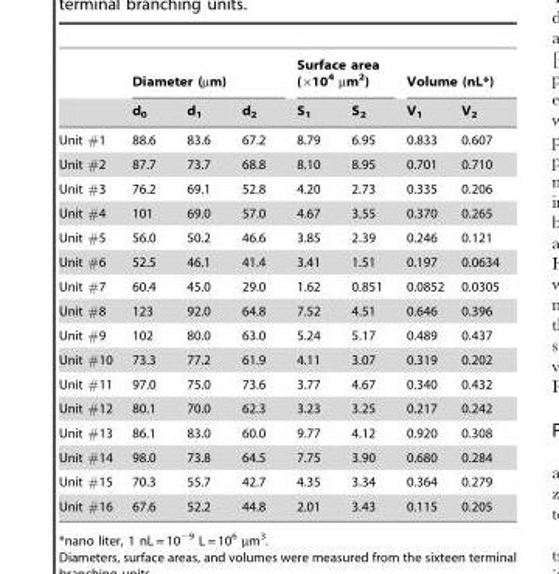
<table><thead><tr><td rowspan="2"></td><td colspan="3">Diameter (µm)</td><td colspan="2">Surface area (×10<sup>4</sup> µm<sup>2</sup>)</td><td colspan="2">Volume (nL*)</td></tr><tr><td>d<sub>0</sub></td><td>d<sub>1</sub></td><td>d<sub>2</sub></td><td>S<sub>1</sub></td><td>S<sub>2</sub></td><td>V<sub>1</sub></td><td>V<sub>2</sub></td></tr></thead><tbody><tr><td>Unit #1</td><td>88.6</td><td>83.6</td><td>67.2</td><td>8.79</td><td>6.95</td><td>0.833</td><td>0.607</td></tr><tr><td>Unit #2</td><td>87.7</td><td>73.7</td><td>68.8</td><td>8.10</td><td>8.95</td><td>0.701</td><td>0.710</td></tr><tr><td>Unit #3</td><td>76.2</td><td>69.1</td><td>52.8</td><td>4.20</td><td>2.73</td><td>0.335</td><td>0.206</td></tr><tr><td>Unit #4</td><td>101</td><td>69.0</td><td>57.0</td><td>4.67</td><td>3.55</td><td>0.370</td><td>0.265</td></tr><tr><td>Unit #5</td><td>56.0</td><td>50.2</td><td>46.6</td><td>3.85</td><td>2.39</td><td>0.246</td><td>0.121</td></tr><tr><td>Unit #6</td><td>52.5</td><td>46.1</td><td>41.4</td><td>3.41</td><td>1.51</td><td>0.197</td><td>0.0634</td></tr><tr><td>Unit #7</td><td>60.4</td><td>45.0</td><td>29.0</td><td>1.62</td><td>0.851</td><td>0.0852</td><td>0.0305</td></tr><tr><td>Unit #8</td><td>123</td><td>92.0</td><td>64.8</td><td>7.52</td><td>4.51</td><td>0.646</td><td>0.396</td></tr><tr><td>Unit #9</td><td>102</td><td>80.0</td><td>63.0</td><td>5.24</td><td>5.17</td><td>0.489</td><td>0.437</td></tr><tr><td>Unit #10</td><td>73.3</td><td>77.2</td><td>61.9</td><td>4.11</td><td>3.07</td><td>0.319</td><td>0.202</td></tr><tr><td>Unit #11</td><td>97.0</td><td>75.0</td><td>73.6</td><td>3.77</td><td>4.67</td><td>0.340</td><td>0.432</td></tr><tr><td>Unit #12</td><td>80.1</td><td>70.0</td><td>62.3</td><td>3.23</td><td>3.25</td><td>0.217</td><td>0.242</td></tr><tr><td>Unit #13</td><td>86.1</td><td>83.0</td><td>60.0</td><td>9.77</td><td>4.12</td><td>0.920</td><td>0.308</td></tr><tr><td>Unit #14</td><td>98.0</td><td>73.8</td><td>64.5</td><td>7.75</td><td>3.90</td><td>0.680</td><td>0.284</td></tr><tr><td>Unit #15</td><td>70.3</td><td>55.7</td><td>42.7</td><td>4.35</td><td>3.34</td><td>0.364</td><td>0.279</td></tr><tr><td>Unit #16</td><td>67.6</td><td>52.2</td><td>44.8</td><td>2.01</td><td>3.43</td><td>0.115</td><td>0.205</td></tr></tbody></table>